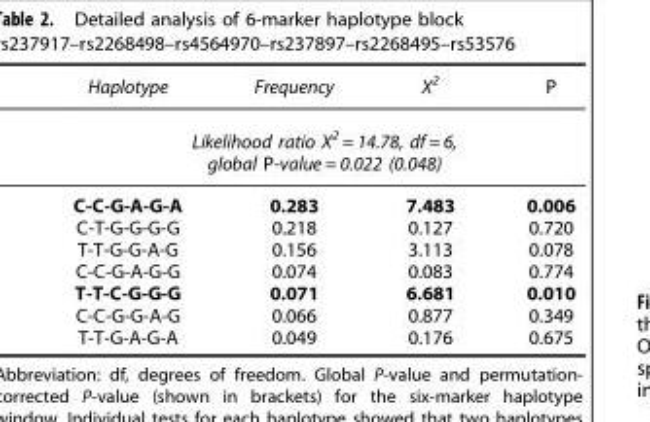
<table><thead><tr><td>Haplotype</td><td>Frequency</td><td>X<sup>2</sup></td><td>P</td></tr><tr><td colspan="4">Likelihood ratio X<sup>2</sup> = 14.78, df = 6, global P-value = 0.022 (0.048)</td></tr></thead><tbody><tr><td>C-C-G-A-G-A</td><td>0.283</td><td>7.483</td><td>0.006</td></tr><tr><td>C-T-G-G-G-G</td><td>0.218</td><td>0.127</td><td>0.720</td></tr><tr><td>T-T-G-G-A-G</td><td>0.156</td><td>3.113</td><td>0.078</td></tr><tr><td>C-C-G-A-G-G</td><td>0.074</td><td>0.083</td><td>0.774</td></tr><tr><td>T-T-C-G-G-G</td><td>0.071</td><td>6.681</td><td>0.010</td></tr><tr><td>C-C-G-G-A-G</td><td>0.066</td><td>0.877</td><td>0.349</td></tr><tr><td>T-T-G-A-G-A</td><td>0.049</td><td>0.176</td><td>0.675</td></tr></tbody></table>